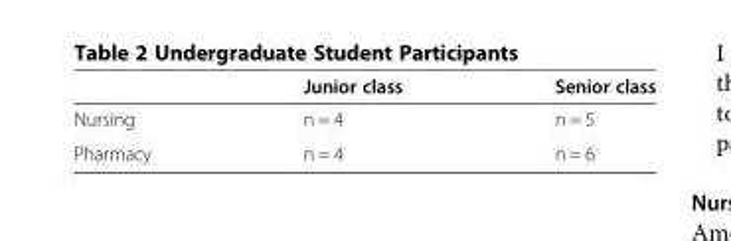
<table><thead><tr><td></td><td>Junior class</td><td>Senior class</td></tr></thead><tbody><tr><td>Nursing</td><td>n = 4</td><td>n = 5</td></tr><tr><td>Pharmacy</td><td>n = 4</td><td>n = 6</td></tr></tbody></table>